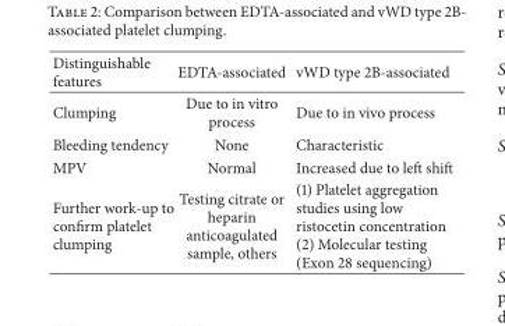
<table><thead><tr><td>Distinguishable features</td><td>EDTA-associated</td><td>vWD type 2B-associated</td></tr></thead><tbody><tr><td>Clumping</td><td>Due to in vitro process</td><td>Due to in vivo process</td></tr><tr><td>Bleeding tendency</td><td>None</td><td>Characteristic</td></tr><tr><td>MPV</td><td>Normal</td><td>Increased due to left shift</td></tr><tr><td>Further work-up to confirm platelet clumping</td><td>Testing citrate or heparin anticoagulated sample, others</td><td>(1) Platelet aggregation studies using low ristocetin concentration (2) Molecular testing (Exon 28 sequencing)</td></tr></tbody></table>